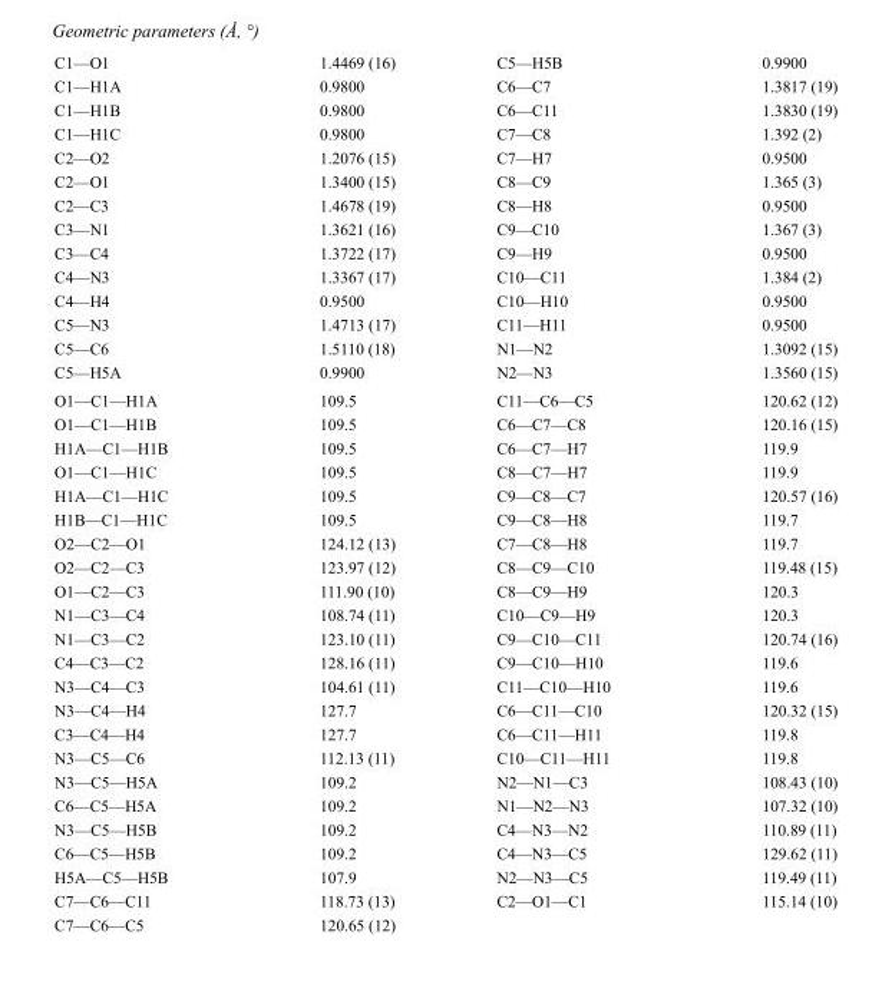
<table><tbody><tr><td>C1—O1</td><td>1.4469 (16)</td><td>C5—H5B</td><td>0.9900</td></tr><tr><td>C1—H1A</td><td>0.9800</td><td>C6—C7</td><td>1.3817 (19)</td></tr><tr><td>C1—H1B</td><td>0.9800</td><td>C6—C11</td><td>1.3830 (19)</td></tr><tr><td>C1—H1C</td><td>0.9800</td><td>C7—C8</td><td>1.392 (2)</td></tr><tr><td>C2—O2</td><td>1.2076 (15)</td><td>C7—H7</td><td>0.9500</td></tr><tr><td>C2—O1</td><td>1.3400 (15)</td><td>C8—C9</td><td>1.365 (3)</td></tr><tr><td>C2—C3</td><td>1.4678 (19)</td><td>C8—H8</td><td>0.9500</td></tr><tr><td>C3—N1</td><td>1.3621 (16)</td><td>C9—C10</td><td>1.367 (3)</td></tr><tr><td>C3—C4</td><td>1.3722 (17)</td><td>C9—H9</td><td>0.9500</td></tr><tr><td>C4—N3</td><td>1.3367 (17)</td><td>C10—C11</td><td>1.384 (2)</td></tr><tr><td>C4—H4</td><td>0.9500</td><td>C10—H10</td><td>0.9500</td></tr><tr><td>C5—N3</td><td>1.4713 (17)</td><td>C11—H11</td><td>0.9500</td></tr><tr><td>C5—C6</td><td>1.5110 (18)</td><td>N1—N2</td><td>1.3092 (15)</td></tr><tr><td>C5—H5A</td><td>0.9900</td><td>N2—N3</td><td>1.3560 (15)</td></tr><tr><td>O1—C1—H1A</td><td>109.5</td><td>C11—C6—C5</td><td>120.62 (12)</td></tr><tr><td>O1—C1—H1B</td><td>109.5</td><td>C6—C7—C8</td><td>120.16 (15)</td></tr><tr><td>H1A—C1—H1B</td><td>109.5</td><td>C6—C7—H7</td><td>119.9</td></tr><tr><td>O1—C1—H1C</td><td>109.5</td><td>C8—C7—H7</td><td>119.9</td></tr><tr><td>H1A—C1—H1C</td><td>109.5</td><td>C9—C8—C7</td><td>120.57 (16)</td></tr><tr><td>H1B—C1—H1C</td><td>109.5</td><td>C9—C8—H8</td><td>119.7</td></tr><tr><td>O2—C2—O1</td><td>124.12 (13)</td><td>C7—C8—H8</td><td>119.7</td></tr><tr><td>O2—C2—C3</td><td>123.97 (12)</td><td>C8—C9—C10</td><td>119.48 (15)</td></tr><tr><td>O1—C2—C3</td><td>111.90 (10)</td><td>C8—C9—H9</td><td>120.3</td></tr><tr><td>N1—C3—C4</td><td>108.74 (11)</td><td>C10—C9—H9</td><td>120.3</td></tr><tr><td>N1—C3—C2</td><td>123.10 (11)</td><td>C9—C10—C11</td><td>120.74 (16)</td></tr><tr><td>C4—C3—C2</td><td>128.16 (11)</td><td>C9—C10—H10</td><td>119.6</td></tr><tr><td>N3—C4—C3</td><td>104.61 (11)</td><td>C11—C10—H10</td><td>119.6</td></tr><tr><td>N3—C4—H4</td><td>127.7</td><td>C6—C11—C10</td><td>120.32 (15)</td></tr><tr><td>C3—C4—H4</td><td>127.7</td><td>C6—C11—H11</td><td>119.8</td></tr><tr><td>N3—C5—C6</td><td>112.13 (11)</td><td>C10—C11—H11</td><td>119.8</td></tr><tr><td>N3—C5—H5A</td><td>109.2</td><td>N2—N1—C3</td><td>108.43 (10)</td></tr><tr><td>C6—C5—H5A</td><td>109.2</td><td>N1—N2—N3</td><td>107.32 (10)</td></tr><tr><td>N3—C5—H5B</td><td>109.2</td><td>C4—N3—N2</td><td>110.89 (11)</td></tr><tr><td>C6—C5—H5B</td><td>109.2</td><td>C4—N3—C5</td><td>129.62 (11)</td></tr><tr><td>H5A—C5—H5B</td><td>107.9</td><td>N2—N3—C5</td><td>119.49 (11)</td></tr><tr><td>C7—C6—C11</td><td>118.73 (13)</td><td>C2—O1—C1</td><td>115.14 (10)</td></tr><tr><td>C7—C6—C5</td><td>120.65 (12)</td><td></td><td></td></tr></tbody></table>